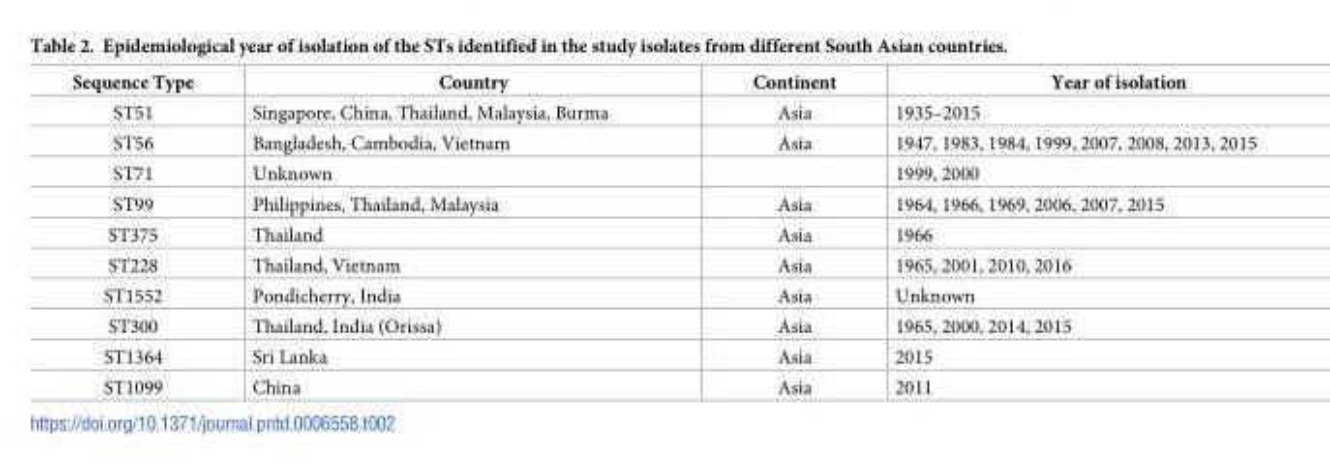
<table><thead><tr><td>Sequence Type</td><td>Country</td><td>Continent</td><td>Year of isolation</td></tr></thead><tbody><tr><td>ST51</td><td>Singapore, China, Thailand, Malaysia, Burma</td><td>Asia</td><td>1935–2015</td></tr><tr><td>ST56</td><td>Bangladesh, Cambodia, Vietnam</td><td>Asia</td><td>1947, 1983, 1984, 1999, 2007, 2008, 2013, 2015</td></tr><tr><td>ST71</td><td>Unknown</td><td></td><td>1999, 2000</td></tr><tr><td>ST99</td><td>Philippines, Thailand, Malaysia</td><td>Asia</td><td>1964, 1966, 1969, 2006, 2007, 2015</td></tr><tr><td>ST375</td><td>Thailand</td><td>Asia</td><td>1966</td></tr><tr><td>ST228</td><td>Thailand, Vietnam</td><td>Asia</td><td>1965, 2001, 2010, 2016</td></tr><tr><td>ST1552</td><td>Pondicherry, India</td><td>Asia</td><td>Unknown</td></tr><tr><td>ST300</td><td>Thailand, India (Orissa)</td><td>Asia</td><td>1965, 2000, 2014, 2015</td></tr><tr><td>ST1364</td><td>Sri Lanka</td><td>Asia</td><td>2015</td></tr><tr><td>ST1099</td><td>China</td><td>Asia</td><td>2011</td></tr></tbody></table>